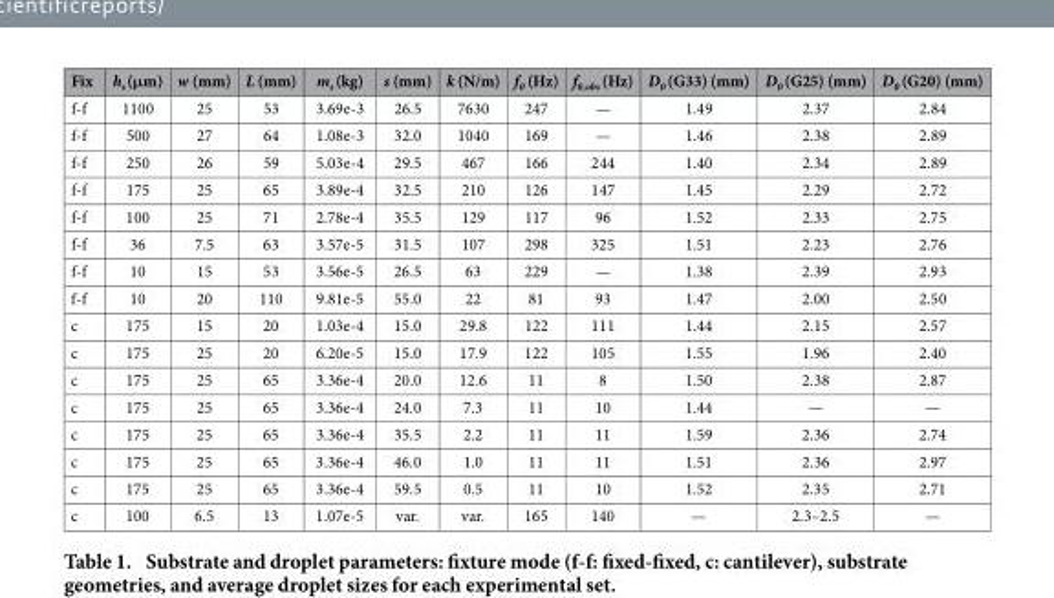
<table><thead><tr><td>Fix</td><td>h<sub>s</sub> (μm)</td><td>w (mm)</td><td>L (mm)</td><td>m<sub>s</sub> (kg)</td><td>s (mm)</td><td>k (N/m)</td><td>f<sub>0</sub> (Hz)</td><td>f<sub>0,obs</sub> (Hz)</td><td>D<sub>0</sub> (G33) (mm)</td><td>D<sub>0</sub> (G25) (mm)</td><td>D<sub>0</sub> (G20) (mm)</td></tr></thead><tbody><tr><td>f-f</td><td>1100</td><td>25</td><td>53</td><td>3.69e-3</td><td>26.5</td><td>7630</td><td>247</td><td>—</td><td>1.49</td><td>2.37</td><td>2.84</td></tr><tr><td>f-f</td><td>500</td><td>27</td><td>64</td><td>1.08e-3</td><td>32.0</td><td>1040</td><td>169</td><td>—</td><td>1.46</td><td>2.38</td><td>2.89</td></tr><tr><td>f-f</td><td>250</td><td>26</td><td>59</td><td>5.03e-4</td><td>29.5</td><td>467</td><td>166</td><td>244</td><td>1.40</td><td>2.34</td><td>2.89</td></tr><tr><td>f-f</td><td>175</td><td>25</td><td>65</td><td>3.89e-4</td><td>32.5</td><td>210</td><td>126</td><td>147</td><td>1.45</td><td>2.29</td><td>2.72</td></tr><tr><td>f-f</td><td>100</td><td>25</td><td>71</td><td>2.78e-4</td><td>35.5</td><td>129</td><td>117</td><td>96</td><td>1.52</td><td>2.33</td><td>2.75</td></tr><tr><td>f-f</td><td>36</td><td>7.5</td><td>63</td><td>3.57e-5</td><td>31.5</td><td>107</td><td>298</td><td>325</td><td>1.51</td><td>2.23</td><td>2.76</td></tr><tr><td>f-f</td><td>10</td><td>15</td><td>53</td><td>3.56e-5</td><td>26.5</td><td>63</td><td>229</td><td>—</td><td>1.38</td><td>2.39</td><td>2.93</td></tr><tr><td>f-f</td><td>10</td><td>20</td><td>110</td><td>9.81e-5</td><td>55.0</td><td>22</td><td>81</td><td>93</td><td>1.47</td><td>2.00</td><td>2.50</td></tr><tr><td>c</td><td>175</td><td>15</td><td>20</td><td>1.03e-4</td><td>15.0</td><td>29.8</td><td>122</td><td>111</td><td>1.44</td><td>2.15</td><td>2.57</td></tr><tr><td>c</td><td>175</td><td>25</td><td>20</td><td>6.20e-5</td><td>15.0</td><td>17.9</td><td>122</td><td>105</td><td>1.55</td><td>1.96</td><td>2.40</td></tr><tr><td>c</td><td>175</td><td>25</td><td>65</td><td>3.36e-4</td><td>20.0</td><td>12.6</td><td>11</td><td>8</td><td>1.50</td><td>2.38</td><td>2.87</td></tr><tr><td>c</td><td>175</td><td>25</td><td>65</td><td>3.36e-4</td><td>24.0</td><td>7.3</td><td>11</td><td>10</td><td>1.44</td><td>—</td><td>—</td></tr><tr><td>c</td><td>175</td><td>25</td><td>65</td><td>3.36e-4</td><td>35.5</td><td>2.2</td><td>11</td><td>11</td><td>1.59</td><td>2.36</td><td>2.74</td></tr><tr><td>c</td><td>175</td><td>25</td><td>65</td><td>3.36e-4</td><td>46.0</td><td>1.0</td><td>11</td><td>11</td><td>1.51</td><td>2.36</td><td>2.97</td></tr><tr><td>c</td><td>175</td><td>25</td><td>65</td><td>3.36e-4</td><td>59.5</td><td>0.5</td><td>11</td><td>10</td><td>1.52</td><td>2.35</td><td>2.71</td></tr><tr><td>c</td><td>100</td><td>6.5</td><td>13</td><td>1.07e-5</td><td>var.</td><td>var.</td><td>165</td><td>140</td><td>—</td><td>2.3–2.5</td><td>—</td></tr></tbody></table>